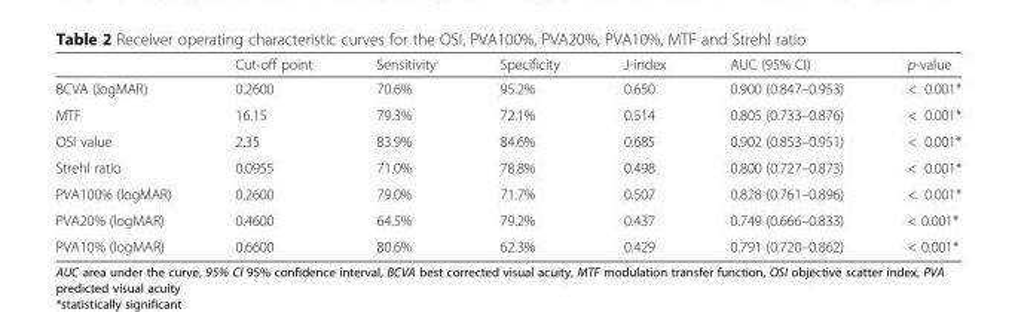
<table><thead><tr><td></td><td>Cut-off point</td><td>Sensitivity</td><td>Specificity</td><td>J-index</td><td>AUC (95% CI)</td><td>p-value</td></tr></thead><tbody><tr><td>BCVA (logMAR)</td><td>0.2600</td><td>70.6%</td><td>95.2%</td><td>0.650</td><td>0.900 (0.847–0.953)</td><td>&lt; 0.001*</td></tr><tr><td>MTF</td><td>16.15</td><td>79.3%</td><td>72.1%</td><td>0.514</td><td>0.805 (0.733–0.876)</td><td>&lt; 0.001*</td></tr><tr><td>OSI value</td><td>2.35</td><td>83.9%</td><td>84.6%</td><td>0.685</td><td>0.902 (0.853–0.951)</td><td>&lt; 0.001*</td></tr><tr><td>Strehl ratio</td><td>0.0955</td><td>71.0%</td><td>78.8%</td><td>0.498</td><td>0.800 (0.727–0.873)</td><td>&lt; 0.001*</td></tr><tr><td>PVA100% (logMAR)</td><td>0.2600</td><td>79.0%</td><td>71.7%</td><td>0.507</td><td>0.828 (0.761–0.896)</td><td>&lt; 0.001*</td></tr><tr><td>PVA20% (logMAR)</td><td>0.4600</td><td>64.5%</td><td>79.2%</td><td>0.437</td><td>0.749 (0.666–0.833)</td><td>&lt; 0.001*</td></tr><tr><td>PVA10% (logMAR)</td><td>0.6600</td><td>80.6%</td><td>62.3%</td><td>0.429</td><td>0.791 (0.720–0.862)</td><td>&lt; 0.001*</td></tr></tbody></table>